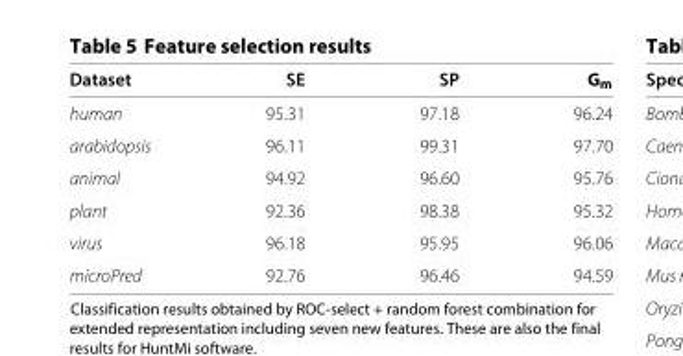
<table><thead><tr><td>Dataset</td><td>SE</td><td>SP</td><td>G<sub>m</sub></td></tr></thead><tbody><tr><td>human</td><td>95.31</td><td>97.18</td><td>96.24</td></tr><tr><td>arabidopsis</td><td>96.11</td><td>99.31</td><td>97.70</td></tr><tr><td>animal</td><td>94.92</td><td>96.60</td><td>95.76</td></tr><tr><td>plant</td><td>92.36</td><td>98.38</td><td>95.32</td></tr><tr><td>virus</td><td>96.18</td><td>95.95</td><td>96.06</td></tr><tr><td>microPred</td><td>92.76</td><td>96.46</td><td>94.59</td></tr></tbody></table>